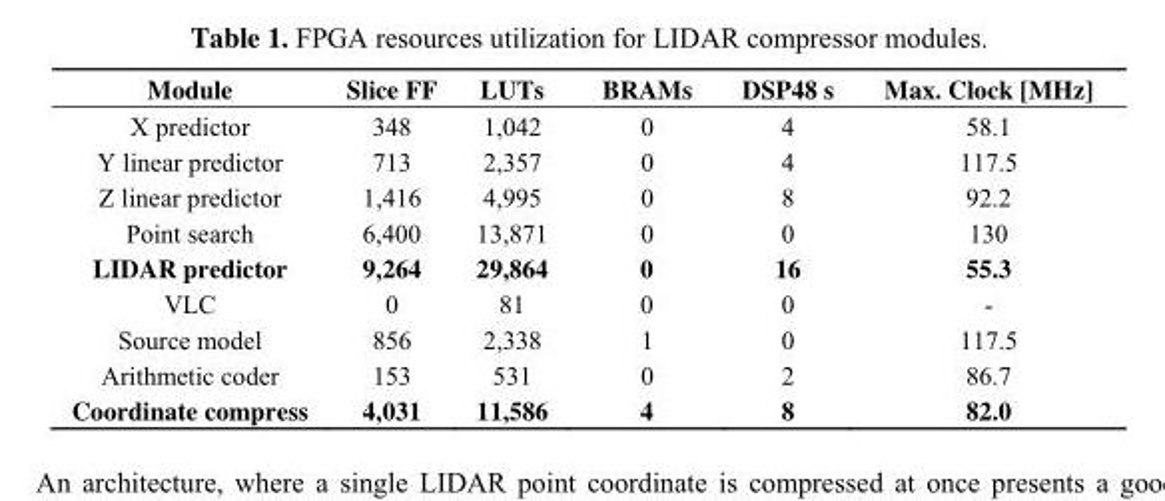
<table><thead><tr><td>Module</td><td>Slice FF</td><td>LUTs</td><td>BRAMs</td><td>DSP48 s</td><td>Max. Clock [MHz]</td></tr></thead><tbody><tr><td>X predictor</td><td>348</td><td>1,042</td><td>0</td><td>4</td><td>58.1</td></tr><tr><td>Y linear predictor</td><td>713</td><td>2,357</td><td>0</td><td>4</td><td>117.5</td></tr><tr><td>Z linear predictor</td><td>1,416</td><td>4,995</td><td>0</td><td>8</td><td>92.2</td></tr><tr><td>Point search</td><td>6,400</td><td>13,871</td><td>0</td><td>0</td><td>130</td></tr><tr><td>LIDAR predictor</td><td>9,264</td><td>29,864</td><td>0</td><td>16</td><td>55.3</td></tr><tr><td>VLC</td><td>0</td><td>81</td><td>0</td><td>0</td><td>-</td></tr><tr><td>Source model</td><td>856</td><td>2,338</td><td>1</td><td>0</td><td>117.5</td></tr><tr><td>Arithmetic coder</td><td>153</td><td>531</td><td>0</td><td>2</td><td>86.7</td></tr><tr><td>Coordinate compress</td><td>4,031</td><td>11,586</td><td>4</td><td>8</td><td>82.0</td></tr></tbody></table>